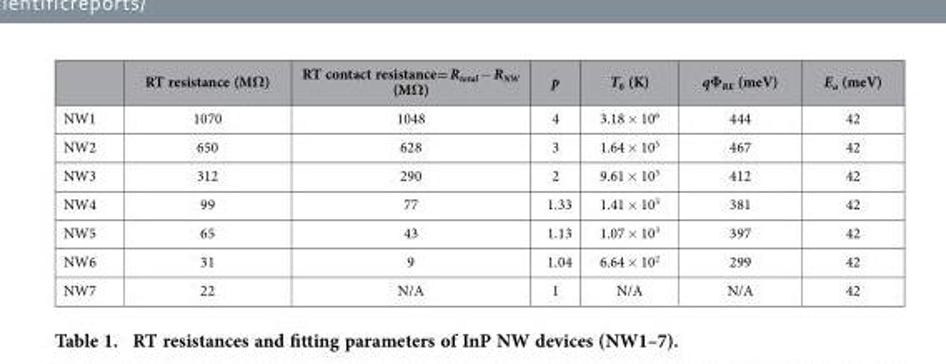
<table><thead><tr><td></td><td>RT resistance (MΩ)</td><td>RT contact resistance= R<sub>total</sub> − R<sub>NW</sub> (MΩ)</td><td>p</td><td>T<sub>0</sub> (K)</td><td>qΦ<sub>BE</sub> (meV)</td><td>E<sub>a</sub> (meV)</td></tr></thead><tbody><tr><td>NW1</td><td>1070</td><td>1048</td><td>4</td><td>3.18 × 10<sup>6</sup></td><td>444</td><td>42</td></tr><tr><td>NW2</td><td>650</td><td>628</td><td>3</td><td>1.64 × 10<sup>5</sup></td><td>467</td><td>42</td></tr><tr><td>NW3</td><td>312</td><td>290</td><td>2</td><td>9.61 × 10<sup>3</sup></td><td>412</td><td>42</td></tr><tr><td>NW4</td><td>99</td><td>77</td><td>1.33</td><td>1.41 × 10<sup>3</sup></td><td>381</td><td>42</td></tr><tr><td>NW5</td><td>65</td><td>43</td><td>1.13</td><td>1.07 × 10<sup>3</sup></td><td>397</td><td>42</td></tr><tr><td>NW6</td><td>31</td><td>9</td><td>1.04</td><td>6.64 × 10<sup>2</sup></td><td>299</td><td>42</td></tr><tr><td>NW7</td><td>22</td><td>N/A</td><td>1</td><td>N/A</td><td>N/A</td><td>42</td></tr></tbody></table>